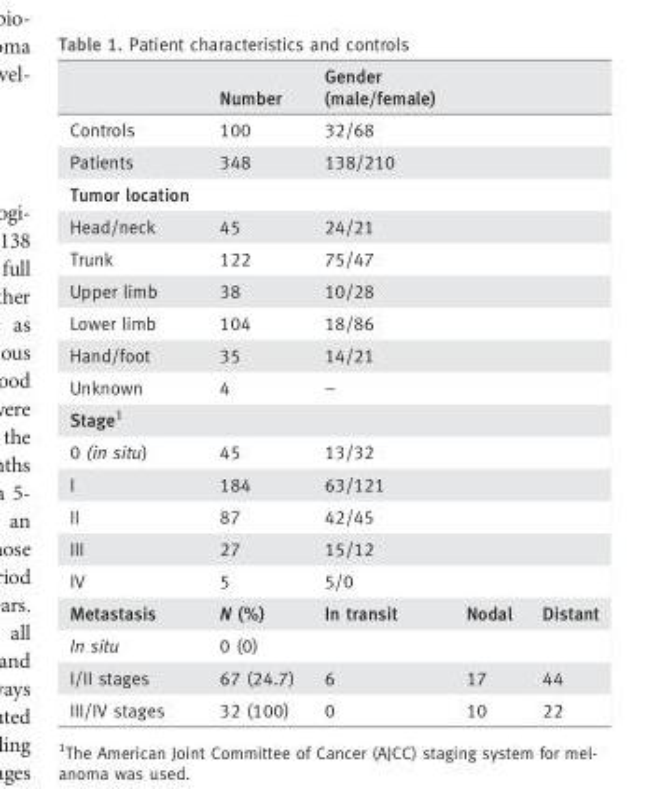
<table><thead><tr><td></td><td>Number</td><td>Gender (male/female)</td><td></td><td></td></tr></thead><tbody><tr><td>Controls</td><td>100</td><td>32/68</td><td></td><td></td></tr><tr><td>Patients</td><td>348</td><td>138/210</td><td></td><td></td></tr><tr><td colspan="5">Tumor location</td></tr><tr><td>Head/neck</td><td>45</td><td>24/21</td><td></td><td></td></tr><tr><td>Trunk</td><td>122</td><td>75/47</td><td></td><td></td></tr><tr><td>Upper limb</td><td>38</td><td>10/28</td><td></td><td></td></tr><tr><td>Lower limb</td><td>104</td><td>18/86</td><td></td><td></td></tr><tr><td>Hand/foot</td><td>35</td><td>14/21</td><td></td><td></td></tr><tr><td>Unknown</td><td>4</td><td>–</td><td></td><td></td></tr><tr><td colspan="5">Stage1</td></tr><tr><td>0 (in situ)</td><td>45</td><td>13/32</td><td></td><td></td></tr><tr><td>I</td><td>184</td><td>63/121</td><td></td><td></td></tr><tr><td>II</td><td>87</td><td>42/45</td><td></td><td></td></tr><tr><td>III</td><td>27</td><td>15/12</td><td></td><td></td></tr><tr><td>IV</td><td>5</td><td>5/0</td><td></td><td></td></tr><tr><td>Metastasis</td><td>N (%)</td><td>In transit</td><td>Nodal</td><td>Distant</td></tr><tr><td>In situ</td><td>0 (0)</td><td></td><td></td><td></td></tr><tr><td>I/II stages</td><td>67 (24.7)</td><td>6</td><td>17</td><td>44</td></tr><tr><td>III/IV stages</td><td>32 (100)</td><td>0</td><td>10</td><td>22</td></tr></tbody></table>